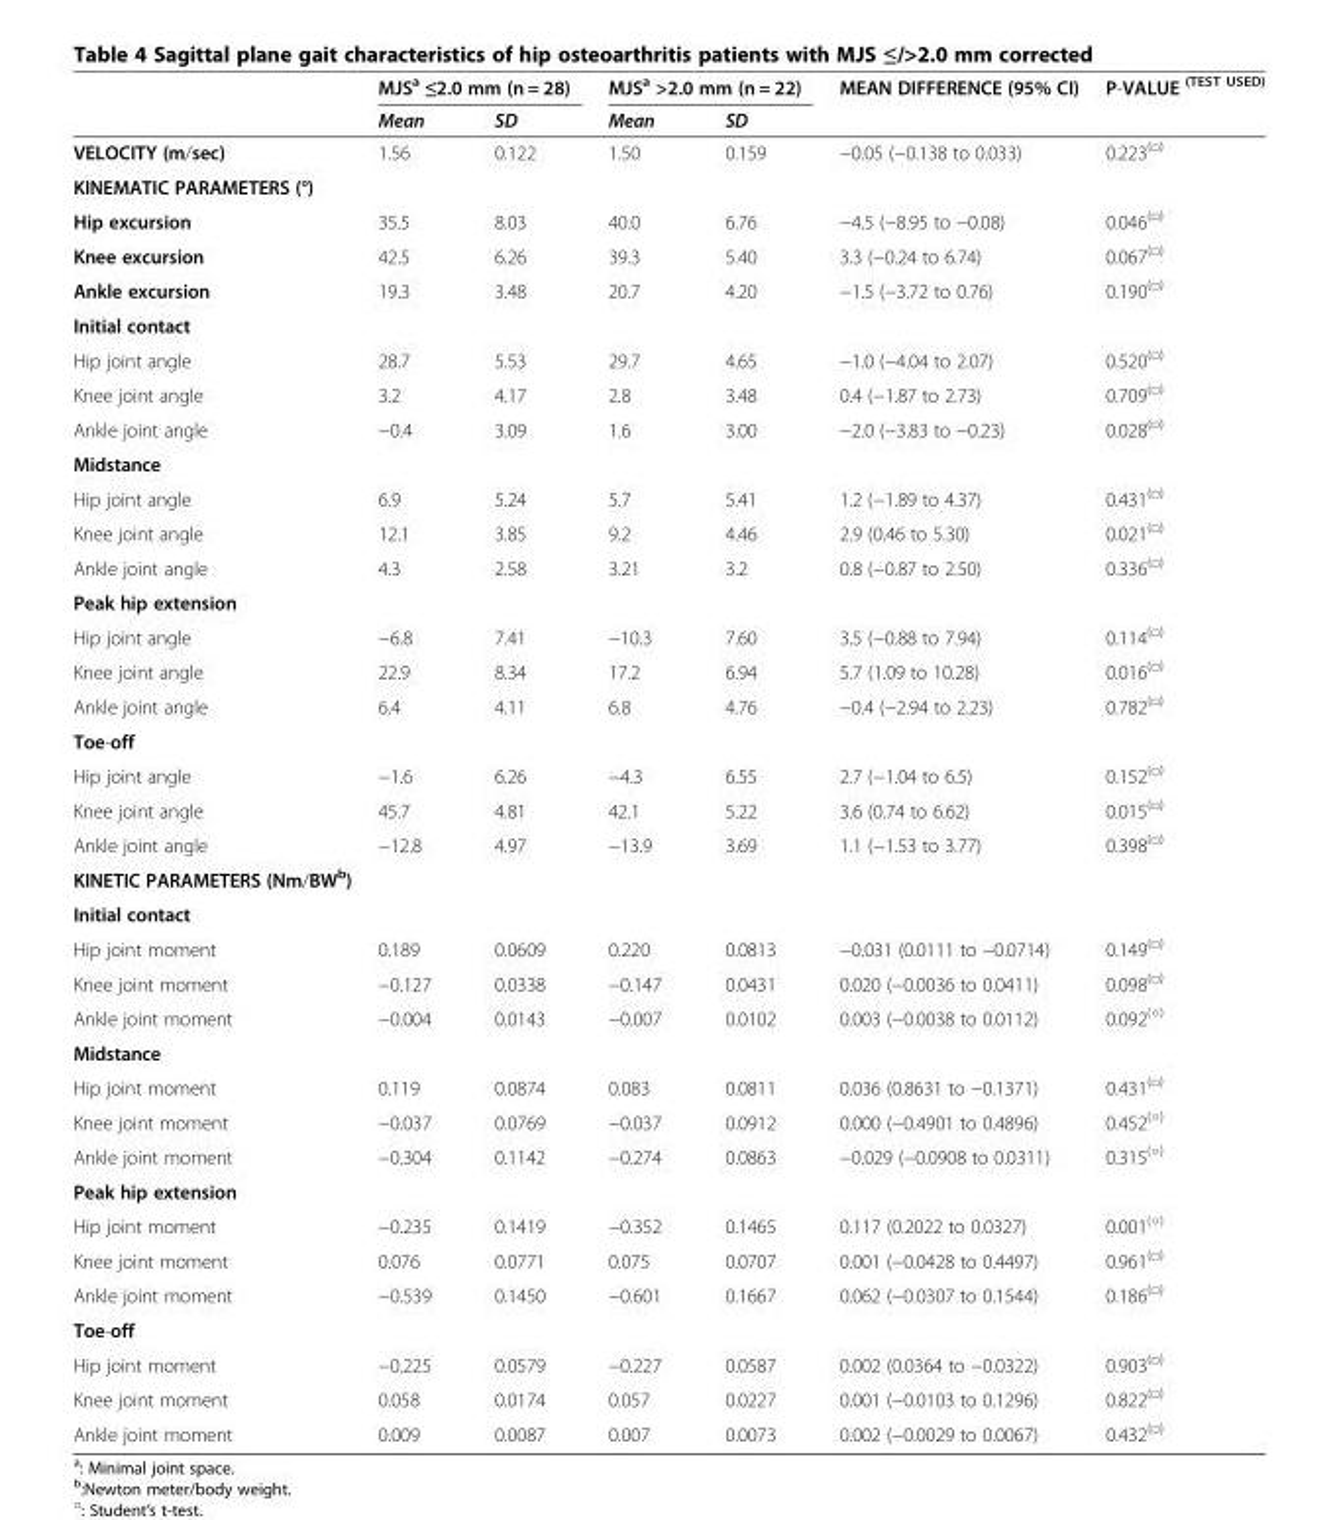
<table><thead><tr><td rowspan="2"></td><td colspan="2">MJS<sup>a</sup> ≤2.0 mm (n = 28)</td><td colspan="2">MJS<sup>a</sup> &gt;2.0 mm (n = 22)</td><td rowspan="2">MEAN DIFFERENCE (95% CI)</td><td rowspan="2">P-VALUE <sup>(TEST USED)</sup></td></tr><tr><td>Mean</td><td>SD</td><td>Mean</td><td>SD</td></tr></thead><tbody><tr><td>VELOCITY (m/sec)</td><td>1.56</td><td>0.122</td><td>1.50</td><td>0.159</td><td>−0.05 (−0.138 to 0.033)</td><td>0.223<sup>(□)</sup></td></tr><tr><td colspan="7">KINEMATIC PARAMETERS (°)</td></tr><tr><td>Hip excursion</td><td>35.5</td><td>8.03</td><td>40.0</td><td>6.76</td><td>−4.5 (−8.95 to −0.08)</td><td>0.046<sup>(□)</sup></td></tr><tr><td>Knee excursion</td><td>42.5</td><td>6.26</td><td>39.3</td><td>5.40</td><td>3.3 (−0.24 to 6.74)</td><td>0.067<sup>(□)</sup></td></tr><tr><td>Ankle excursion</td><td>19.3</td><td>3.48</td><td>20.7</td><td>4.20</td><td>−1.5 (−3.72 to 0.76)</td><td>0.190<sup>(□)</sup></td></tr><tr><td colspan="7">Initial contact</td></tr><tr><td>Hip joint angle</td><td>28.7</td><td>5.53</td><td>29.7</td><td>4.65</td><td>−1.0 (−4.04 to 2.07)</td><td>0.520<sup>(□)</sup></td></tr><tr><td>Knee joint angle</td><td>3.2</td><td>4.17</td><td>2.8</td><td>3.48</td><td>0.4 (−1.87 to 2.73)</td><td>0.709<sup>(□)</sup></td></tr><tr><td>Ankle joint angle</td><td>−0.4</td><td>3.09</td><td>1.6</td><td>3.00</td><td>−2.0 (−3.83 to −0.23)</td><td>0.028<sup>(□)</sup></td></tr><tr><td colspan="7">Midstance</td></tr><tr><td>Hip joint angle</td><td>6.9</td><td>5.24</td><td>5.7</td><td>5.41</td><td>1.2 (−1.89 to 4.37)</td><td>0.431<sup>(□)</sup></td></tr><tr><td>Knee joint angle</td><td>12.1</td><td>3.85</td><td>9.2</td><td>4.46</td><td>2.9 (0.46 to 5.30)</td><td>0.021<sup>(□)</sup></td></tr><tr><td>Ankle joint angle</td><td>4.3</td><td>2.58</td><td>3.21</td><td>3.2</td><td>0.8 (−0.87 to 2.50)</td><td>0.336<sup>(□)</sup></td></tr><tr><td colspan="7">Peak hip extension</td></tr><tr><td>Hip joint angle</td><td>−6.8</td><td>7.41</td><td>−10.3</td><td>7.60</td><td>3.5 (−0.88 to 7.94)</td><td>0.114<sup>(□)</sup></td></tr><tr><td>Knee joint angle</td><td>22.9</td><td>8.34</td><td>17.2</td><td>6.94</td><td>5.7 (1.09 to 10.28)</td><td>0.016<sup>(□)</sup></td></tr><tr><td>Ankle joint angle</td><td>6.4</td><td>4.11</td><td>6.8</td><td>4.76</td><td>−0.4 (−2.94 to 2.23)</td><td>0.782<sup>(□)</sup></td></tr><tr><td colspan="7">Toe-off</td></tr><tr><td>Hip joint angle</td><td>−1.6</td><td>6.26</td><td>−4.3</td><td>6.55</td><td>2.7 (−1.04 to 6.5)</td><td>0.152<sup>(□)</sup></td></tr><tr><td>Knee joint angle</td><td>45.7</td><td>4.81</td><td>42.1</td><td>5.22</td><td>3.6 (0.74 to 6.62)</td><td>0.015<sup>(□)</sup></td></tr><tr><td>Ankle joint angle</td><td>−12.8</td><td>4.97</td><td>−13.9</td><td>3.69</td><td>1.1 (−1.53 to 3.77)</td><td>0.398<sup>(□)</sup></td></tr><tr><td colspan="7">KINETIC PARAMETERS (Nm/BW<sup>b</sup>)</td></tr><tr><td colspan="7">Initial contact</td></tr><tr><td>Hip joint moment</td><td>0.189</td><td>0.0609</td><td>0.220</td><td>0.0813</td><td>−0.031 (0.0111 to −0.0714)</td><td>0.149<sup>(□)</sup></td></tr><tr><td>Knee joint moment</td><td>−0.127</td><td>0.0338</td><td>−0.147</td><td>0.0431</td><td>0.020 (−0.0036 to 0.0411)</td><td>0.098<sup>(□)</sup></td></tr><tr><td>Ankle joint moment</td><td>−0.004</td><td>0.0143</td><td>−0.007</td><td>0.0102</td><td>0.003 (−0.0038 to 0.0112)</td><td>0.092<sup>(○)</sup></td></tr><tr><td colspan="7">Midstance</td></tr><tr><td>Hip joint moment</td><td>0.119</td><td>0.0874</td><td>0.083</td><td>0.0811</td><td>0.036 (0.8631 to −0.1371)</td><td>0.431<sup>(□)</sup></td></tr><tr><td>Knee joint moment</td><td>−0.037</td><td>0.0769</td><td>−0.037</td><td>0.0912</td><td>0.000 (−0.4901 to 0.4896)</td><td>0.452<sup>(○)</sup></td></tr><tr><td>Ankle joint moment</td><td>−0.304</td><td>0.1142</td><td>−0.274</td><td>0.0863</td><td>−0.029 (−0.0908 to 0.0311)</td><td>0.315<sup>(○)</sup></td></tr><tr><td colspan="7">Peak hip extension</td></tr><tr><td>Hip joint moment</td><td>−0.235</td><td>0.1419</td><td>−0.352</td><td>0.1465</td><td>0.117 (0.2022 to 0.0327)</td><td>0.001<sup>(○)</sup></td></tr><tr><td>Knee joint moment</td><td>0.076</td><td>0.0771</td><td>0.075</td><td>0.0707</td><td>0.001 (−0.0428 to 0.4497)</td><td>0.961<sup>(□)</sup></td></tr><tr><td>Ankle joint moment</td><td>−0.539</td><td>0.1450</td><td>−0.601</td><td>0.1667</td><td>0.062 (−0.0307 to 0.1544)</td><td>0.186<sup>(□)</sup></td></tr><tr><td colspan="7">Toe-off</td></tr><tr><td>Hip joint moment</td><td>−0.225</td><td>0.0579</td><td>−0.227</td><td>0.0587</td><td>0.002 (0.0364 to −0.0322)</td><td>0.903<sup>(□)</sup></td></tr><tr><td>Knee joint moment</td><td>0.058</td><td>0.0174</td><td>0.057</td><td>0.0227</td><td>0.001 (−0.0103 to 0.1296)</td><td>0.822<sup>(□)</sup></td></tr><tr><td>Ankle joint moment</td><td>0.009</td><td>0.0087</td><td>0.007</td><td>0.0073</td><td>0.002 (−0.0029 to 0.0067)</td><td>0.432<sup>(□)</sup></td></tr></tbody></table>